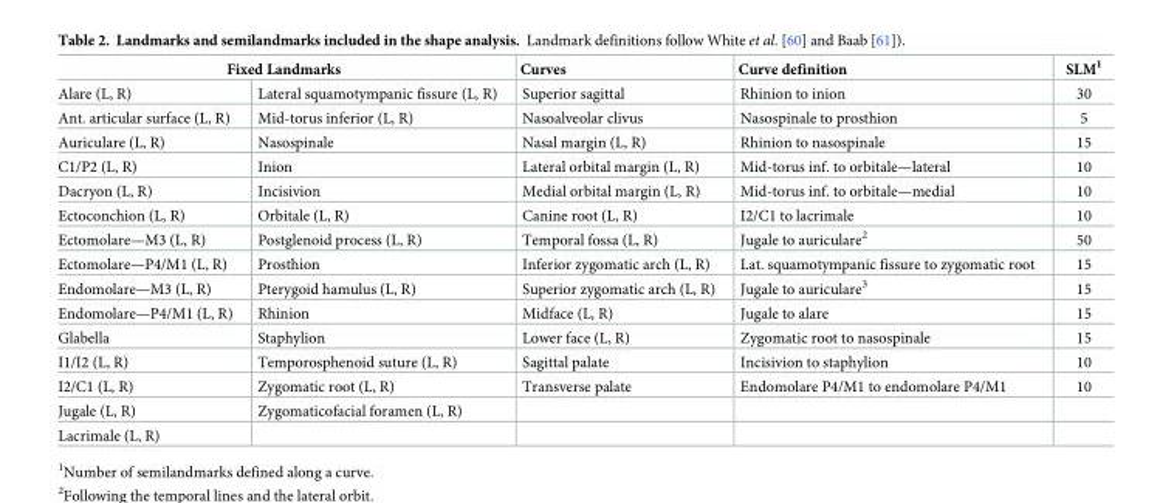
<table><thead><tr><td colspan="2">Fixed Landmarks</td><td rowspan="2">Curves Superior sagittal</td><td rowspan="2">Curve definition Rhinion to inion</td><td rowspan="2">SLM<sup>1</sup> 30</td></tr><tr><td>Alare (L, R)</td><td>Lateral squamotympanic fissure (L, R)</td></tr></thead><tbody><tr><td>Ant. articular surface (L, R)</td><td>Mid-torus inferior (L, R)</td><td>Nasoalveolar clivus</td><td>Nasospinale to prosthion</td><td>5</td></tr><tr><td>Auriculare (L, R)</td><td>Nasospinale</td><td>Nasal margin (L, R)</td><td>Rhinion to nasospinale</td><td>15</td></tr><tr><td>C1/P2 (L, R)</td><td>Inion</td><td>Lateral orbital margin (L, R)</td><td>Mid-torus inf. to orbitale—lateral</td><td>10</td></tr><tr><td>Dacryon (L, R)</td><td>Incisivion</td><td>Medial orbital margin (L, R)</td><td>Mid-torus inf. to orbitale—medial</td><td>10</td></tr><tr><td>Ectoconchion (L, R)</td><td>Orbitale (L, R)</td><td>Canine root (L, R)</td><td>I2/C1 to lacrimale</td><td>10</td></tr><tr><td>Ectomolare—M3 (L, R)</td><td>Postglenoid process (L, R)</td><td>Temporal fossa (L, R)</td><td>Jugale to auriculare<sup>2</sup></td><td>50</td></tr><tr><td>Ectomolare—P4/M1 (L, R)</td><td>Prosthion</td><td>Inferior zygomatic arch (L, R)</td><td>Lat. squamotympanic fissure to zygomatic root</td><td>15</td></tr><tr><td>Endomolare—M3 (L, R)</td><td>Pterygoid hamulus (L, R)</td><td>Superior zygomatic arch (L, R)</td><td>Jugale to auriculare<sup>3</sup></td><td>15</td></tr><tr><td>Endomolare—P4/M1 (L, R)</td><td>Rhinion</td><td>Midface (L, R)</td><td>Jugale to alare</td><td>15</td></tr><tr><td>Glabella</td><td>Staphylion</td><td>Lower face (L, R)</td><td>Zygomatic root to nasospinale</td><td>15</td></tr><tr><td>I1/I2 (L, R)</td><td>Temporosphenoid suture (L, R)</td><td>Sagittal palate</td><td>Incisivion to staphylion</td><td>10</td></tr><tr><td>I2/C1 (L, R)</td><td>Zygomatic root (L, R)</td><td>Transverse palate</td><td>Endomolare P4/M1 to endomolare P4/M1</td><td>10</td></tr><tr><td>Jugale (L, R)</td><td>Zygomaticofacial foramen (L, R)</td><td></td><td></td><td></td></tr><tr><td>Lacrimale (L, R)</td><td></td><td></td><td></td><td></td></tr></tbody></table>